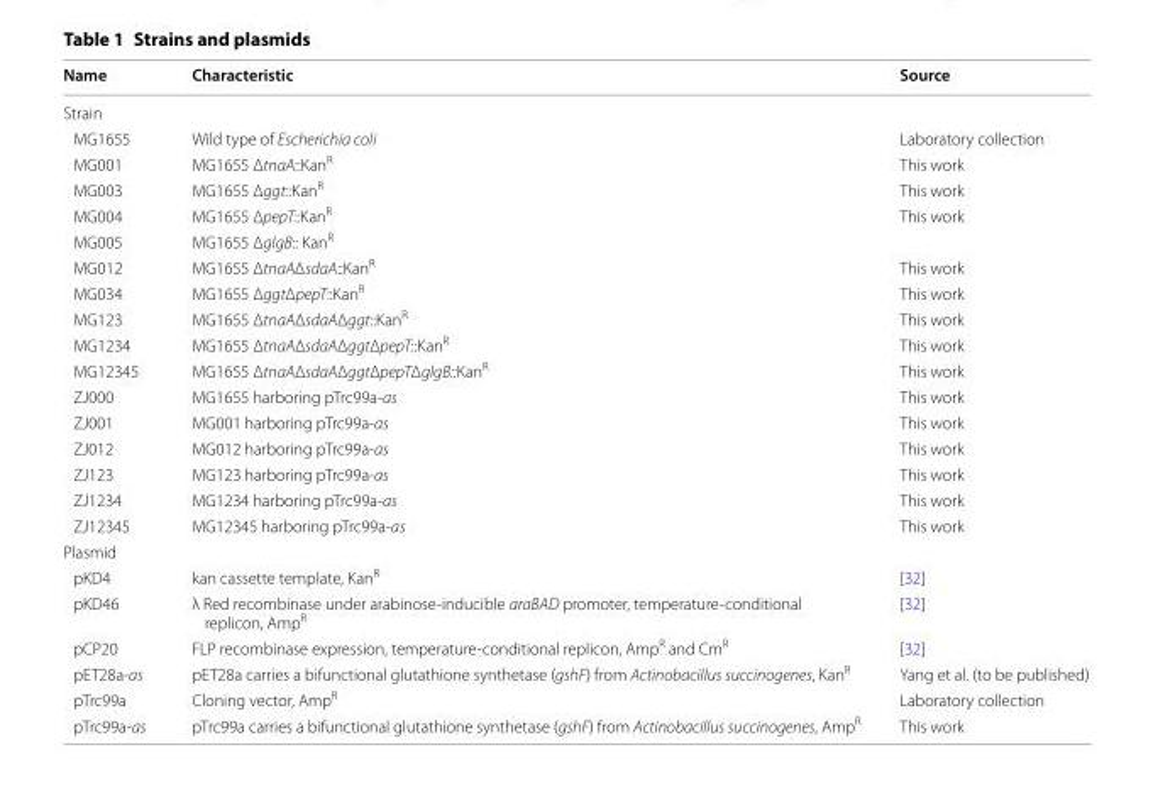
<table><thead><tr><td>Name</td><td>Characteristic</td><td>Source</td></tr></thead><tbody><tr><td colspan="3">Strain</td></tr><tr><td>MG1655</td><td>Wild type of Escherichia coli</td><td>Laboratory collection</td></tr><tr><td>MG001</td><td>MG1655 ΔtnaA::Kan<sup>R</sup></td><td>This work</td></tr><tr><td>MG003</td><td>MG1655 Δggt::Kan<sup>R</sup></td><td>This work</td></tr><tr><td>MG004</td><td>MG1655 ΔpepT::Kan<sup>R</sup></td><td>This work</td></tr><tr><td>MG005</td><td>MG1655 ΔglgB:: Kan<sup>R</sup></td><td></td></tr><tr><td>MG012</td><td>MG1655 ΔtnaAΔsdaA::Kan<sup>R</sup></td><td>This work</td></tr><tr><td>MG034</td><td>MG1655 ΔggtΔpepT::Kan<sup>R</sup></td><td>This work</td></tr><tr><td>MG123</td><td>MG1655 ΔtnaAΔsdaAΔggt::Kan<sup>R</sup></td><td>This work</td></tr><tr><td>MG1234</td><td>MG1655 ΔtnaAΔsdaAΔggtΔpepT::Kan<sup>R</sup></td><td>This work</td></tr><tr><td>MG12345</td><td>MG1655 ΔtnaAΔsdaAΔggtΔpepTΔglgB::Kan<sup>R</sup></td><td>This work</td></tr><tr><td>ZJ000</td><td>MG1655 harboring pTrc99a-as</td><td>This work</td></tr><tr><td>ZJ001</td><td>MG001 harboring pTrc99a-as</td><td>This work</td></tr><tr><td>ZJ012</td><td>MG012 harboring pTrc99a-as</td><td>This work</td></tr><tr><td>ZJ123</td><td>MG123 harboring pTrc99a-as</td><td>This work</td></tr><tr><td>ZJ1234</td><td>MG1234 harboring pTrc99a-as</td><td>This work</td></tr><tr><td>ZJ12345</td><td>MG12345 harboring pTrc99a-as</td><td>This work</td></tr><tr><td colspan="3">Plasmid</td></tr><tr><td>pKD4</td><td>kan cassette template, Kan<sup>R</sup></td><td>[32]</td></tr><tr><td>pKD46</td><td>λ Red recombinase under arabinose-inducible araBAD promoter, temperature-conditional replicon, Amp<sup>R</sup></td><td>[32]</td></tr><tr><td>pCP20</td><td>FLP recombinase expression, temperature-conditional replicon, Amp<sup>R</sup> and Cm<sup>R</sup></td><td>[32]</td></tr><tr><td>pET28a-as</td><td>pET28a carries a bifunctional glutathione synthetase (gshF) from Actinobacillus succinogenes, Kan<sup>R</sup></td><td>Yang et al. (to be published)</td></tr><tr><td>pTrc99a</td><td>Cloning vector, Amp<sup>R</sup></td><td>Laboratory collection</td></tr><tr><td>pTrc99a-as</td><td>pTrc99a carries a bifunctional glutathione synthetase (gshF) from Actinobacillus succinogenes, Amp<sup>R</sup></td><td>This work</td></tr></tbody></table>